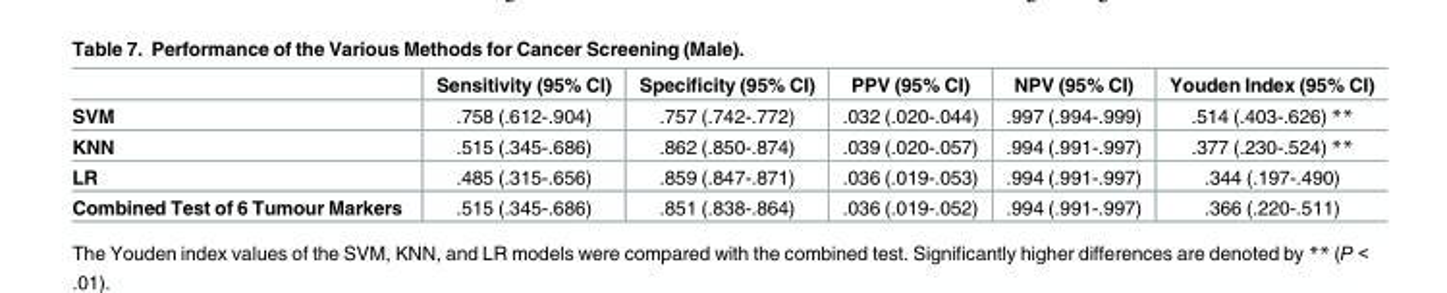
<table><thead><tr><td></td><td>Sensitivity (95% CI)</td><td>Specificity (95% CI)</td><td>PPV (95% CI)</td><td>NPV (95% CI)</td><td>Youden Index (95% CI)</td></tr></thead><tbody><tr><td>SVM</td><td>.758 (.612-.904)</td><td>.757 (.742-.772)</td><td>.032 (.020-.044)</td><td>.997 (.994-.999)</td><td>.514 (.403-.626) **</td></tr><tr><td>KNN</td><td>.515 (.345-.686)</td><td>.862 (.850-.874)</td><td>.039 (.020-.057)</td><td>.994 (.991-.997)</td><td>.377 (.230-.524) **</td></tr><tr><td>LR</td><td>.485 (.315-.656)</td><td>.859 (.847-.871)</td><td>.036 (.019-.053)</td><td>.994 (.991-.997)</td><td>.344 (.197-.490)</td></tr><tr><td>Combined Test of 6 Tumour Markers</td><td>.515 (.345-.686)</td><td>.851 (.838-.864)</td><td>.036 (.019-.052)</td><td>.994 (.991-.997)</td><td>.366 (.220-.511)</td></tr></tbody></table>